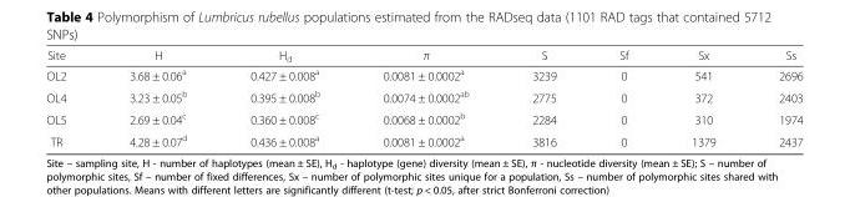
<table><thead><tr><td>Site</td><td>H</td><td>H<sub>d</sub></td><td>π</td><td>S</td><td>Sf</td><td>Sx</td><td>Ss</td></tr></thead><tbody><tr><td>OL2</td><td>3.68 ± 0.06<sup>a</sup></td><td>0.427 ± 0.008<sup>a</sup></td><td>0.0081 ± 0.0002<sup>a</sup></td><td>3239</td><td>0</td><td>541</td><td>2696</td></tr><tr><td>OL4</td><td>3.23 ± 0.05<sup>b</sup></td><td>0.395 ± 0.008<sup>b</sup></td><td>0.0074 ± 0.0002<sup>ab</sup></td><td>2775</td><td>0</td><td>372</td><td>2403</td></tr><tr><td>OL5</td><td>2.69 ± 0.04<sup>c</sup></td><td>0.360 ± 0.008<sup>c</sup></td><td>0.0068 ± 0.0002<sup>b</sup></td><td>2284</td><td>0</td><td>310</td><td>1974</td></tr><tr><td>TR</td><td>4.28 ± 0.07<sup>d</sup></td><td>0.436 ± 0.008<sup>a</sup></td><td>0.0081 ± 0.0002<sup>a</sup></td><td>3816</td><td>0</td><td>1379</td><td>2437</td></tr></tbody></table>